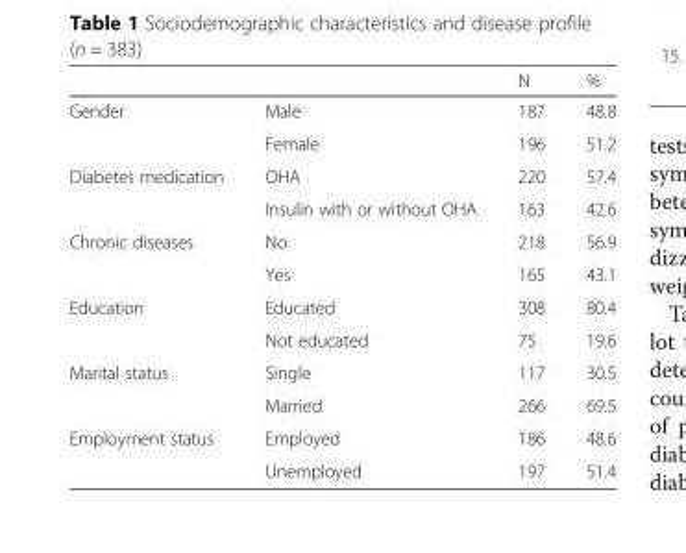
<table><thead><tr><td></td><td></td><td>N</td><td>%</td></tr></thead><tbody><tr><td rowspan="2">Gender</td><td>Male</td><td>187</td><td>48.8</td></tr><tr><td>Female</td><td>196</td><td>51.2</td></tr><tr><td rowspan="2">Diabetes medication</td><td>OHA</td><td>220</td><td>57.4</td></tr><tr><td>Insulin with or without OHA</td><td>163</td><td>42.6</td></tr><tr><td rowspan="2">Chronic diseases</td><td>No</td><td>218</td><td>56.9</td></tr><tr><td>Yes</td><td>165</td><td>43.1</td></tr><tr><td rowspan="2">Education</td><td>Educated</td><td>308</td><td>80.4</td></tr><tr><td>Not educated</td><td>75</td><td>19.6</td></tr><tr><td rowspan="2">Marital status</td><td>Single</td><td>117</td><td>30.5</td></tr><tr><td>Married</td><td>266</td><td>69.5</td></tr><tr><td rowspan="2">Employment status</td><td>Employed</td><td>186</td><td>48.6</td></tr><tr><td>Unemployed</td><td>197</td><td>51.4</td></tr></tbody></table>